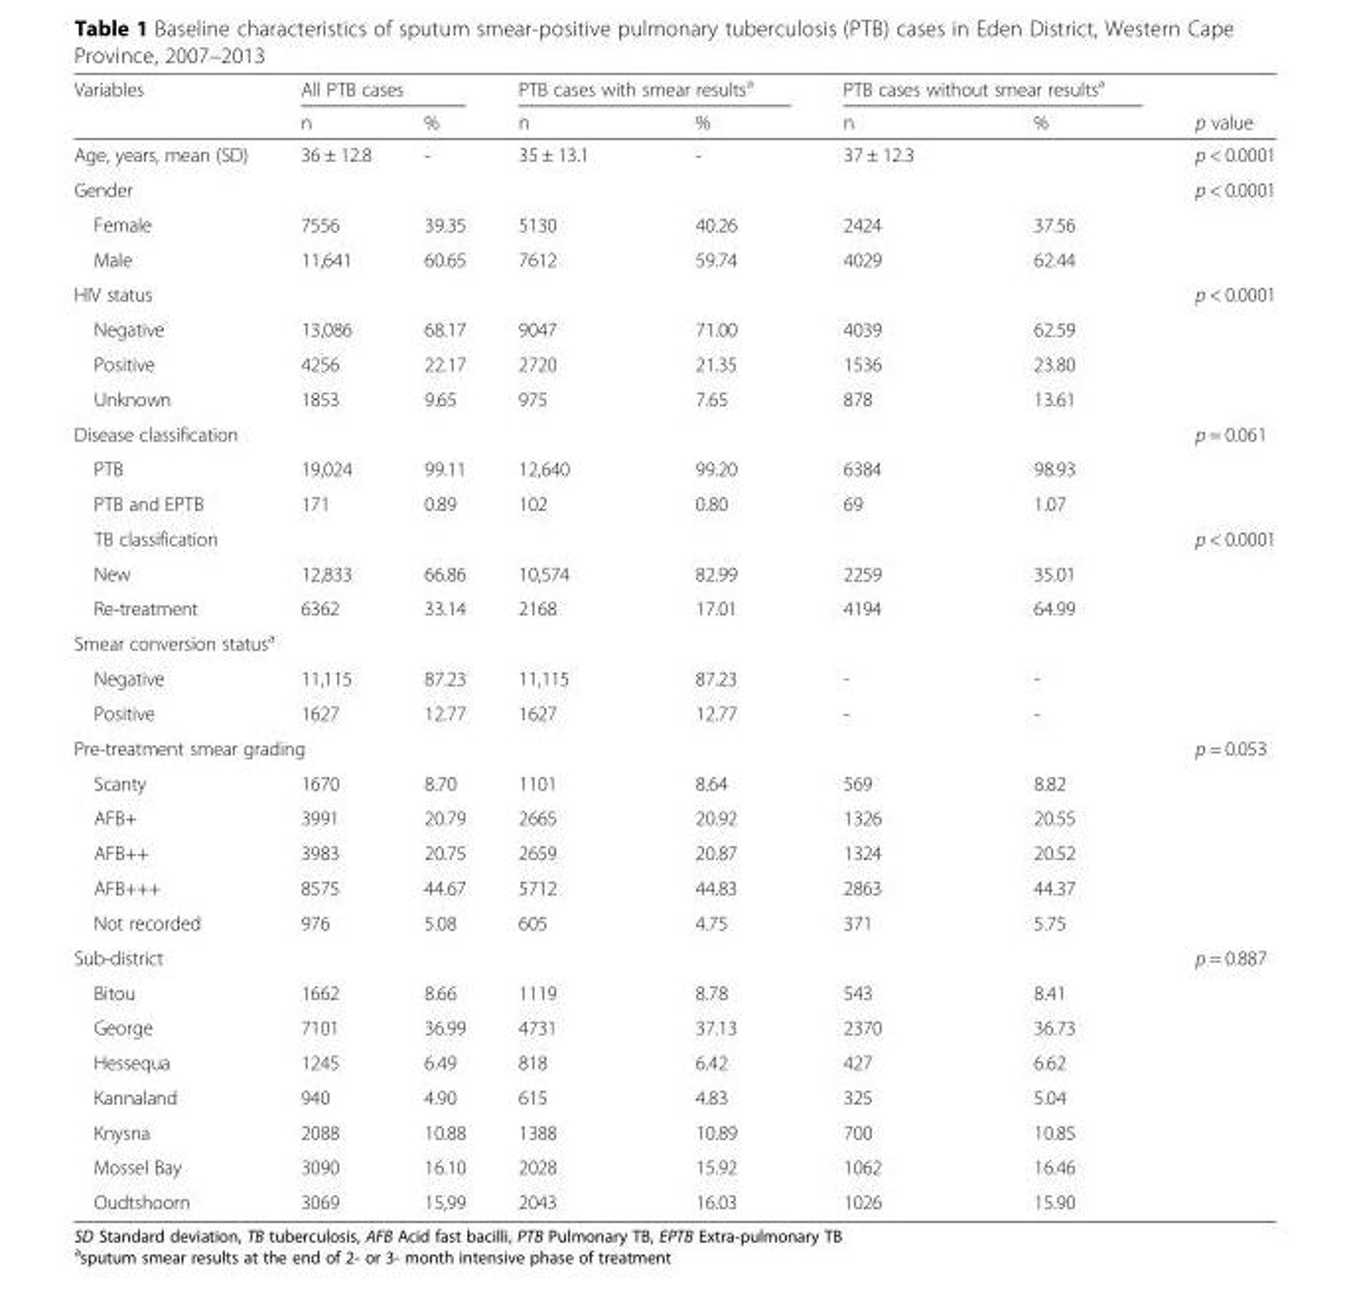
<table><thead><tr><td rowspan="2">Variables</td><td colspan="2">All PTB cases</td><td colspan="2">PTB cases with smear results<sup>a</sup></td><td colspan="2">PTB cases without smear results<sup>a</sup></td><td rowspan="2">p value</td></tr><tr><td>n</td><td>%</td><td>n</td><td>%</td><td>n</td><td>%</td></tr></thead><tbody><tr><td>Age, years, mean (SD)</td><td>36 ± 12.8</td><td>-</td><td>35 ± 13.1</td><td>-</td><td>37 ± 12.3</td><td></td><td>p &lt; 0.0001</td></tr><tr><td>Gender</td><td></td><td></td><td></td><td></td><td></td><td></td><td>p &lt; 0.0001</td></tr><tr><td>Female</td><td>7556</td><td>39.35</td><td>5130</td><td>40.26</td><td>2424</td><td>37.56</td><td></td></tr><tr><td>Male</td><td>11,641</td><td>60.65</td><td>7612</td><td>59.74</td><td>4029</td><td>62.44</td><td></td></tr><tr><td>HIV status</td><td></td><td></td><td></td><td></td><td></td><td></td><td>p &lt; 0.0001</td></tr><tr><td>Negative</td><td>13,086</td><td>68.17</td><td>9047</td><td>71.00</td><td>4039</td><td>62.59</td><td></td></tr><tr><td>Positive</td><td>4256</td><td>22.17</td><td>2720</td><td>21.35</td><td>1536</td><td>23.80</td><td></td></tr><tr><td>Unknown</td><td>1853</td><td>9.65</td><td>975</td><td>7.65</td><td>878</td><td>13.61</td><td></td></tr><tr><td colspan="3">Disease classification</td><td></td><td></td><td></td><td></td><td>p = 0.061</td></tr><tr><td>PTB</td><td>19,024</td><td>99.11</td><td>12,640</td><td>99.20</td><td>6384</td><td>98.93</td><td></td></tr><tr><td>PTB and EPTB</td><td>171</td><td>0.89</td><td>102</td><td>0.80</td><td>69</td><td>1.07</td><td></td></tr><tr><td>TB classification</td><td></td><td></td><td></td><td></td><td></td><td></td><td>p &lt; 0.0001</td></tr><tr><td>New</td><td>12,833</td><td>66.86</td><td>10,574</td><td>82.99</td><td>2259</td><td>35.01</td><td></td></tr><tr><td>Re-treatment</td><td>6362</td><td>33.14</td><td>2168</td><td>17.01</td><td>4194</td><td>64.99</td><td></td></tr><tr><td colspan="8">Smear conversion status<sup>a</sup></td></tr><tr><td>Negative</td><td>11,115</td><td>87.23</td><td>11,115</td><td>87.23</td><td>-</td><td>-</td><td></td></tr><tr><td>Positive</td><td>1627</td><td>12.77</td><td>1627</td><td>12.77</td><td>-</td><td>-</td><td></td></tr><tr><td colspan="4">Pre-treatment smear grading</td><td></td><td></td><td></td><td>p = 0.053</td></tr><tr><td>Scanty</td><td>1670</td><td>8.70</td><td>1101</td><td>8.64</td><td>569</td><td>8.82</td><td></td></tr><tr><td>AFB+</td><td>3991</td><td>20.79</td><td>2665</td><td>20.92</td><td>1326</td><td>20.55</td><td></td></tr><tr><td>AFB++</td><td>3983</td><td>20.75</td><td>2659</td><td>20.87</td><td>1324</td><td>20.52</td><td></td></tr><tr><td>AFB+++</td><td>8575</td><td>44.67</td><td>5712</td><td>44.83</td><td>2863</td><td>44.37</td><td></td></tr><tr><td>Not recorded</td><td>976</td><td>5.08</td><td>605</td><td>4.75</td><td>371</td><td>5.75</td><td></td></tr><tr><td>Sub-district</td><td></td><td></td><td></td><td></td><td></td><td></td><td>p = 0.887</td></tr><tr><td>Bitou</td><td>1662</td><td>8.66</td><td>1119</td><td>8.78</td><td>543</td><td>8.41</td><td></td></tr><tr><td>George</td><td>7101</td><td>36.99</td><td>4731</td><td>37.13</td><td>2370</td><td>36.73</td><td></td></tr><tr><td>Hessequa</td><td>1245</td><td>6.49</td><td>818</td><td>6.42</td><td>427</td><td>6.62</td><td></td></tr><tr><td>Kannaland</td><td>940</td><td>4.90</td><td>615</td><td>4.83</td><td>325</td><td>5.04</td><td></td></tr><tr><td>Knysna</td><td>2088</td><td>10.88</td><td>1388</td><td>10.89</td><td>700</td><td>10.85</td><td></td></tr><tr><td>Mossel Bay</td><td>3090</td><td>16.10</td><td>2028</td><td>15.92</td><td>1062</td><td>16.46</td><td></td></tr><tr><td>Oudtshoorn</td><td>3069</td><td>15,99</td><td>2043</td><td>16.03</td><td>1026</td><td>15.90</td><td></td></tr></tbody></table>